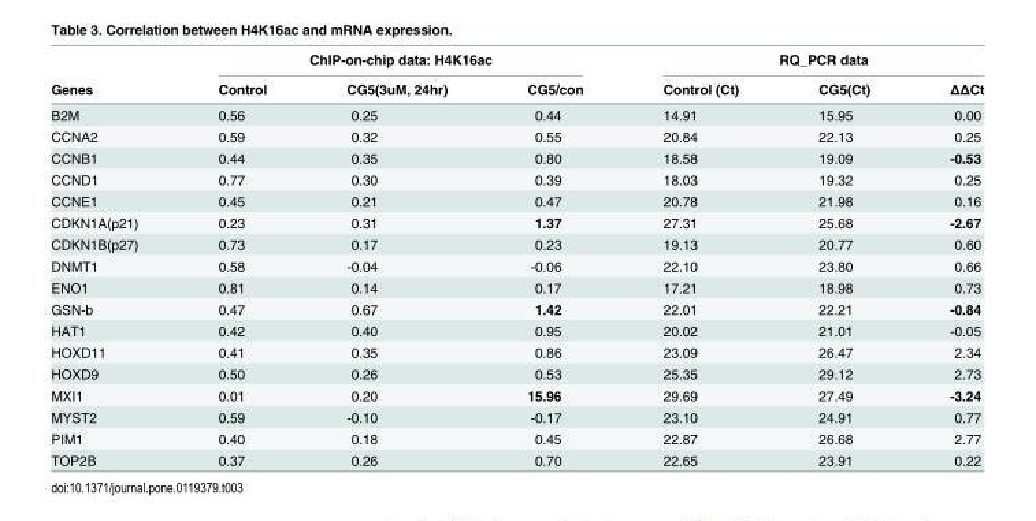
<table><thead><tr><td rowspan="2">Genes</td><td colspan="3">ChIP-on-chip data: H4K16ac</td><td colspan="3">RQ_PCR data</td></tr><tr><td>Control</td><td>CG5(3uM, 24hr)</td><td>CG5/con</td><td>Control (Ct)</td><td>CG5(Ct)</td><td>ΔΔCt</td></tr></thead><tbody><tr><td>B2M</td><td>0.56</td><td>0.25</td><td>0.44</td><td>14.91</td><td>15.95</td><td>0.00</td></tr><tr><td>CCNA2</td><td>0.59</td><td>0.32</td><td>0.55</td><td>20.84</td><td>22.13</td><td>0.25</td></tr><tr><td>CCNB1</td><td>0.44</td><td>0.35</td><td>0.80</td><td>18.58</td><td>19.09</td><td>-0.53</td></tr><tr><td>CCND1</td><td>0.77</td><td>0.30</td><td>0.39</td><td>18.03</td><td>19.32</td><td>0.25</td></tr><tr><td>CCNE1</td><td>0.45</td><td>0.21</td><td>0.47</td><td>20.78</td><td>21.98</td><td>0.16</td></tr><tr><td>CDKN1A(p21)</td><td>0.23</td><td>0.31</td><td>1.37</td><td>27.31</td><td>25.68</td><td>-2.67</td></tr><tr><td>CDKN1B(p27)</td><td>0.73</td><td>0.17</td><td>0.23</td><td>19.13</td><td>20.77</td><td>0.60</td></tr><tr><td>DNMT1</td><td>0.58</td><td>-0.04</td><td>-0.06</td><td>22.10</td><td>23.80</td><td>0.66</td></tr><tr><td>ENO1</td><td>0.81</td><td>0.14</td><td>0.17</td><td>17.21</td><td>18.98</td><td>0.73</td></tr><tr><td>GSN-b</td><td>0.47</td><td>0.67</td><td>1.42</td><td>22.01</td><td>22.21</td><td>-0.84</td></tr><tr><td>HAT1</td><td>0.42</td><td>0.40</td><td>0.95</td><td>20.02</td><td>21.01</td><td>-0.05</td></tr><tr><td>HOXD11</td><td>0.41</td><td>0.35</td><td>0.86</td><td>23.09</td><td>26.47</td><td>2.34</td></tr><tr><td>HOXD9</td><td>0.50</td><td>0.26</td><td>0.53</td><td>25.35</td><td>29.12</td><td>2.73</td></tr><tr><td>MXI1</td><td>0.01</td><td>0.20</td><td>15.96</td><td>29.69</td><td>27.49</td><td>-3.24</td></tr><tr><td>MYST2</td><td>0.59</td><td>-0.10</td><td>-0.17</td><td>23.10</td><td>24.91</td><td>0.77</td></tr><tr><td>PIM1</td><td>0.40</td><td>0.18</td><td>0.45</td><td>22.87</td><td>26.68</td><td>2.77</td></tr><tr><td>TOP2B</td><td>0.37</td><td>0.26</td><td>0.70</td><td>22.65</td><td>23.91</td><td>0.22</td></tr></tbody></table>